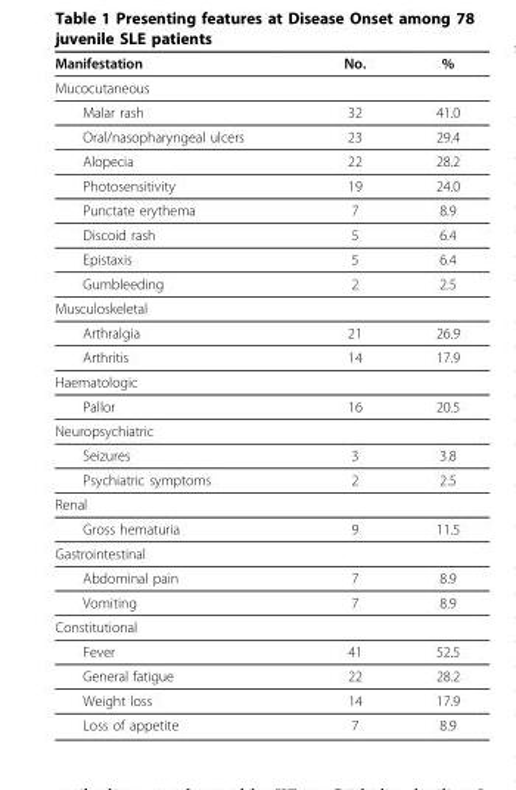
<table><thead><tr><td>Manifestation</td><td>No.</td><td>%</td></tr></thead><tbody><tr><td colspan="3">Mucocutaneous</td></tr><tr><td>Malar rash</td><td>32</td><td>41.0</td></tr><tr><td>Oral/nasopharyngeal ulcers</td><td>23</td><td>29.4</td></tr><tr><td>Alopecia</td><td>22</td><td>28.2</td></tr><tr><td>Photosensitivity</td><td>19</td><td>24.0</td></tr><tr><td>Punctate erythema</td><td>7</td><td>8.9</td></tr><tr><td>Discoid rash</td><td>5</td><td>6.4</td></tr><tr><td>Epistaxis</td><td>5</td><td>6.4</td></tr><tr><td>Gumbleeding</td><td>2</td><td>2.5</td></tr><tr><td colspan="3">Musculoskeletal</td></tr><tr><td>Arthralgia</td><td>21</td><td>26.9</td></tr><tr><td>Arthritis</td><td>14</td><td>17.9</td></tr><tr><td colspan="3">Haematologic</td></tr><tr><td>Pallor</td><td>16</td><td>20.5</td></tr><tr><td colspan="3">Neuropsychiatric</td></tr><tr><td>Seizures</td><td>3</td><td>3.8</td></tr><tr><td>Psychiatric symptoms</td><td>2</td><td>2.5</td></tr><tr><td colspan="3">Renal</td></tr><tr><td>Gross hematuria</td><td>9</td><td>11.5</td></tr><tr><td colspan="3">Gastrointestinal</td></tr><tr><td>Abdominal pain</td><td>7</td><td>8.9</td></tr><tr><td>Vomiting</td><td>7</td><td>8.9</td></tr><tr><td colspan="3">Constitutional</td></tr><tr><td>Fever</td><td>41</td><td>52.5</td></tr><tr><td>General fatigue</td><td>22</td><td>28.2</td></tr><tr><td>Weight loss</td><td>14</td><td>17.9</td></tr><tr><td>Loss of appetite</td><td>7</td><td>8.9</td></tr></tbody></table>